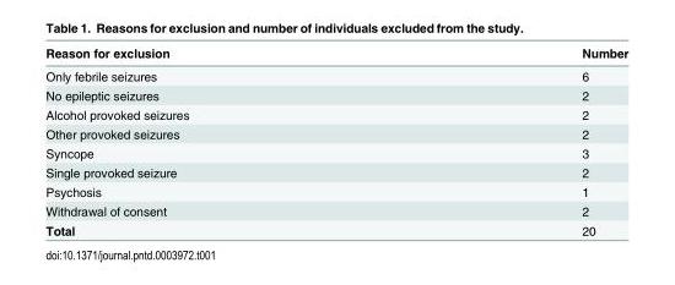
<table><thead><tr><td>Reason for exclusion</td><td>Number</td></tr></thead><tbody><tr><td>Only febrile seizures</td><td>6</td></tr><tr><td>No epileptic seizures</td><td>2</td></tr><tr><td>Alcohol provoked seizures</td><td>2</td></tr><tr><td>Other provoked seizures</td><td>2</td></tr><tr><td>Syncope</td><td>3</td></tr><tr><td>Single provoked seizure</td><td>2</td></tr><tr><td>Psychosis</td><td>1</td></tr><tr><td>Withdrawal of consent</td><td>2</td></tr><tr><td>Total</td><td>20</td></tr></tbody></table>